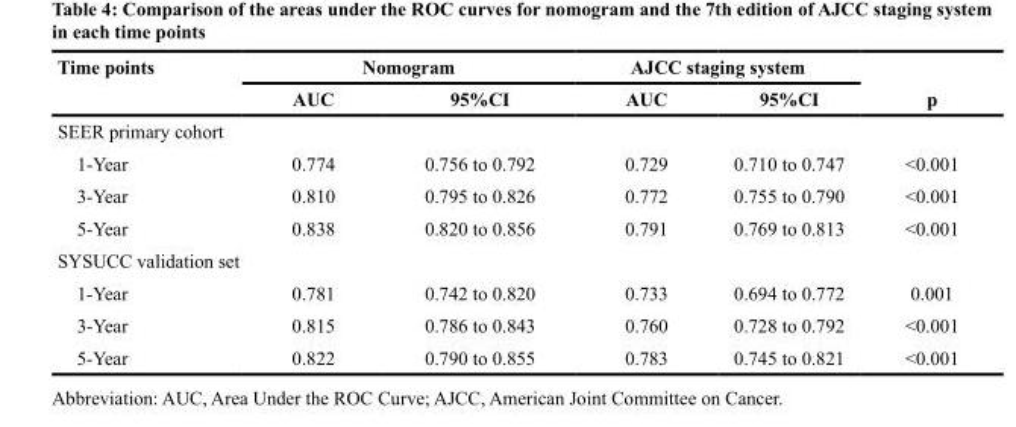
<table><thead><tr><td rowspan="2">Time points</td><td colspan="2">Nomogram</td><td colspan="2">AJCC staging system</td><td rowspan="2">p</td></tr><tr><td>AUC</td><td>95%CI</td><td>AUC</td><td>95%CI</td></tr></thead><tbody><tr><td colspan="6">SEER primary cohort</td></tr><tr><td>1-Year</td><td>0.774</td><td>0.756 to 0.792</td><td>0.729</td><td>0.710 to 0.747</td><td>&lt;0.001</td></tr><tr><td>3-Year</td><td>0.810</td><td>0.795 to 0.826</td><td>0.772</td><td>0.755 to 0.790</td><td>&lt;0.001</td></tr><tr><td>5-Year</td><td>0.838</td><td>0.820 to 0.856</td><td>0.791</td><td>0.769 to 0.813</td><td>&lt;0.001</td></tr><tr><td colspan="6">SYSUCC validation set</td></tr><tr><td>1-Year</td><td>0.781</td><td>0.742 to 0.820</td><td>0.733</td><td>0.694 to 0.772</td><td>0.001</td></tr><tr><td>3-Year</td><td>0.815</td><td>0.786 to 0.843</td><td>0.760</td><td>0.728 to 0.792</td><td>&lt;0.001</td></tr><tr><td>5-Year</td><td>0.822</td><td>0.790 to 0.855</td><td>0.783</td><td>0.745 to 0.821</td><td>&lt;0.001</td></tr></tbody></table>